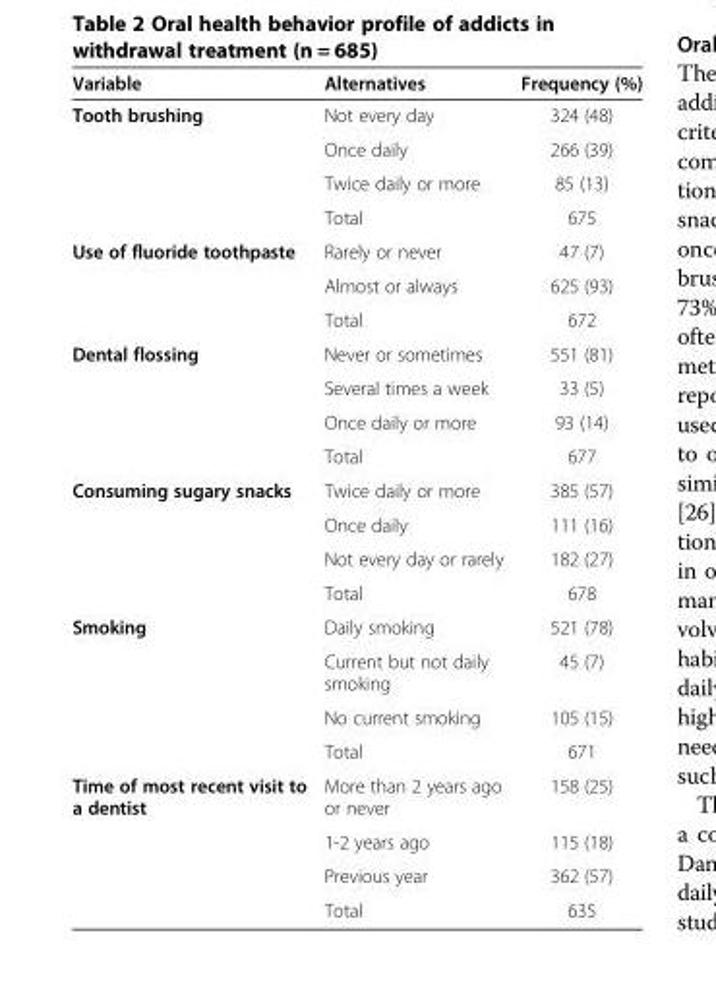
<table><thead><tr><td>Variable</td><td>Alternatives</td><td>Frequency (%)</td></tr></thead><tbody><tr><td rowspan="4">Tooth brushing</td><td>Not every day</td><td>324 (48)</td></tr><tr><td>Once daily</td><td>266 (39)</td></tr><tr><td>Twice daily or more</td><td>85 (13)</td></tr><tr><td>Total</td><td>675</td></tr><tr><td rowspan="3">Use of fluoride toothpaste</td><td>Rarely or never</td><td>47 (7)</td></tr><tr><td>Almost or always</td><td>625 (93)</td></tr><tr><td>Total</td><td>672</td></tr><tr><td rowspan="4">Dental flossing</td><td>Never or sometimes</td><td>551 (81)</td></tr><tr><td>Several times a week</td><td>33 (5)</td></tr><tr><td>Once daily or more</td><td>93 (14)</td></tr><tr><td>Total</td><td>677</td></tr><tr><td rowspan="4">Consuming sugary snacks</td><td>Twice daily or more</td><td>385 (57)</td></tr><tr><td>Once daily</td><td>111 (16)</td></tr><tr><td>Not every day or rarely</td><td>182 (27)</td></tr><tr><td>Total</td><td>678</td></tr><tr><td rowspan="4">Smoking</td><td>Daily smoking</td><td>521 (78)</td></tr><tr><td>Current but not daily smoking</td><td>45 (7)</td></tr><tr><td>No current smoking</td><td>105 (15)</td></tr><tr><td>Total</td><td>671</td></tr><tr><td rowspan="4">Time of most recent visit to a dentist</td><td>More than 2 years ago or never</td><td>158 (25)</td></tr><tr><td>1-2 years ago</td><td>115 (18)</td></tr><tr><td>Previous year</td><td>362 (57)</td></tr><tr><td>Total</td><td>635</td></tr></tbody></table>